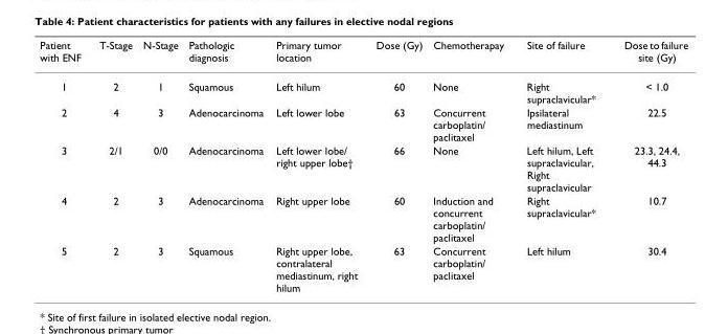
<table><thead><tr><td>Patient with ENF</td><td>T-Stage</td><td>N-Stage</td><td>Pathologic diagnosis</td><td>Primary tumor location</td><td>Dose (Gy)</td><td>Chemotherapay</td><td>Site of failure</td><td>Dose to failure site (Gy)</td></tr></thead><tbody><tr><td>1</td><td>2</td><td>1</td><td>Squamous</td><td>Left hilum</td><td>60</td><td>None</td><td>Right supraclavicular*</td><td>&lt; 1.0</td></tr><tr><td>2</td><td>4</td><td>3</td><td>Adenocarcinoma</td><td>Left lower lobe</td><td>63</td><td>Concurrent carboplatin/ paclitaxel</td><td>Ipsilateral mediastinum</td><td>22.5</td></tr><tr><td>3</td><td>2/1</td><td>0/0</td><td>Adenocarcinoma</td><td>Left lower lobe/ right upper lobe†</td><td>66</td><td>None</td><td>Left hilum, Left supraclavicular, Right supraclavicular</td><td>23.3, 24.4, 44.3</td></tr><tr><td>4</td><td>2</td><td>3</td><td>Adenocarcinoma</td><td>Right upper lobe</td><td>60</td><td>Induction and concurrent carboplatin/ paclitaxel</td><td>Right supraclavicular*</td><td>10.7</td></tr><tr><td>5</td><td>2</td><td>3</td><td>Squamous</td><td>Right upper lobe, contralateral mediastinum, right hilum</td><td>63</td><td>Concurrent carboplatin/ paclitaxel</td><td>Left hilum</td><td>30.4</td></tr></tbody></table>